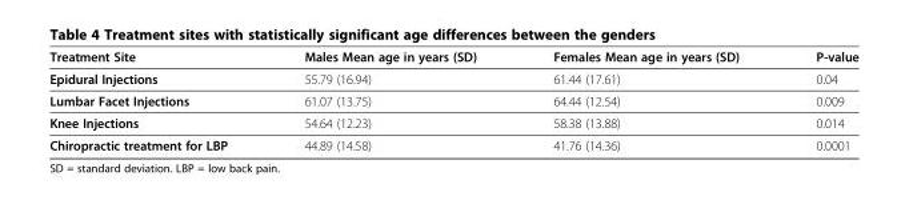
<table><thead><tr><td>Treatment Site</td><td>Males Mean age in years (SD)</td><td>Females Mean age in years (SD)</td><td>P-value</td></tr></thead><tbody><tr><td>Epidural Injections</td><td>55.79 (16.94)</td><td>61.44 (17.61)</td><td>0.04</td></tr><tr><td>Lumbar Facet Injections</td><td>61.07 (13.75)</td><td>64.44 (12.54)</td><td>0.009</td></tr><tr><td>Knee Injections</td><td>54.64 (12.23)</td><td>58.38 (13.88)</td><td>0.014</td></tr><tr><td>Chiropractic treatment for LBP</td><td>44.89 (14.58)</td><td>41.76 (14.36)</td><td>0.0001</td></tr></tbody></table>